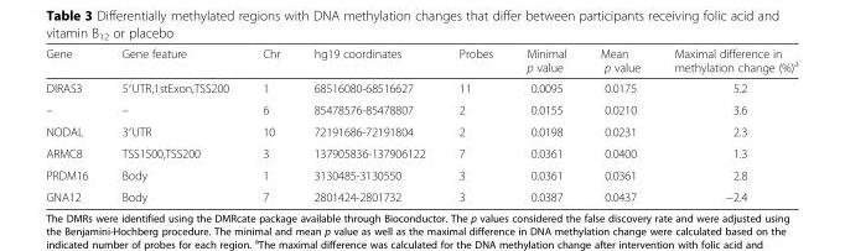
<table><thead><tr><td>Gene</td><td>Gene feature</td><td>Chr</td><td>hg19 coordinates</td><td>Probes</td><td>Minimal p value</td><td>Mean p value</td><td>Maximal difference in methylation change (%)<sup>a</sup></td></tr></thead><tbody><tr><td>DIRAS3</td><td>5′UTR,1stExon,TSS200</td><td>1</td><td>68516080-68516627</td><td>11</td><td>0.0095</td><td>0.0175</td><td>5.2</td></tr><tr><td>–</td><td>–</td><td>6</td><td>85478576-85478807</td><td>2</td><td>0.0155</td><td>0.0210</td><td>3.6</td></tr><tr><td>NODAL</td><td>3′UTR</td><td>10</td><td>72191686-72191804</td><td>2</td><td>0.0198</td><td>0.0231</td><td>2.3</td></tr><tr><td>ARMC8</td><td>TSS1500,TSS200</td><td>3</td><td>137905836-137906122</td><td>7</td><td>0.0361</td><td>0.0400</td><td>1.3</td></tr><tr><td>PRDM16</td><td>Body</td><td>1</td><td>3130485-3130550</td><td>3</td><td>0.0361</td><td>0.0361</td><td>2.8</td></tr><tr><td>GNA12</td><td>Body</td><td>7</td><td>2801424-2801732</td><td>3</td><td>0.0387</td><td>0.0437</td><td>−2.4</td></tr></tbody></table>